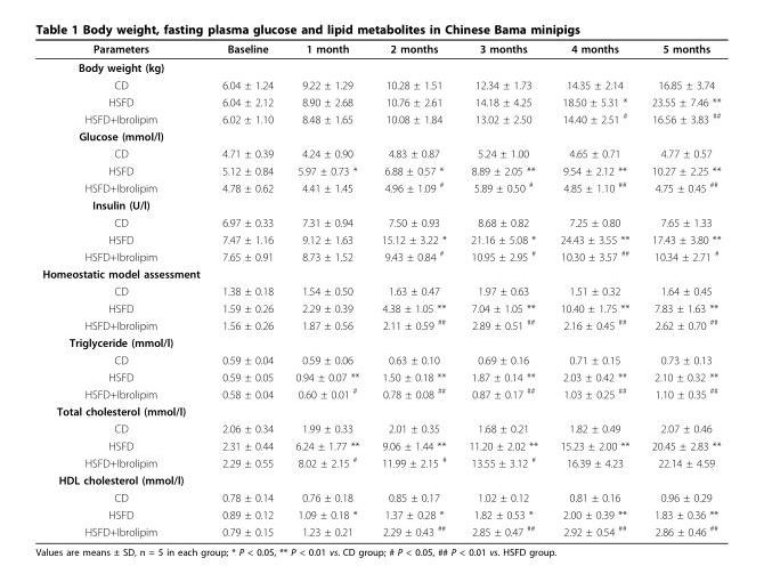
<table><thead><tr><td>Parameters</td><td>Baseline</td><td>1 month</td><td>2 months</td><td>3 months</td><td>4 months</td><td>5 months</td></tr></thead><tbody><tr><td colspan="7">Body weight (kg)</td></tr><tr><td>CD</td><td>6.04 ± 1.24</td><td>9.22 ± 1.29</td><td>10.28 ± 1.51</td><td>12.34 ± 1.73</td><td>14.35 ± 2.14</td><td>16.85 ± 3.74</td></tr><tr><td>HSFD</td><td>6.04 ± 2.12</td><td>8.90 ± 2.68</td><td>10.76 ± 2.61</td><td>14.18 ± 4.25</td><td>18.50 ± 5.31 *</td><td>23.55 ± 7.46 **</td></tr><tr><td>HSFD+Ibrolipim</td><td>6.02 ± 1.10</td><td>8.48 ± 1.65</td><td>10.08 ± 1.84</td><td>13.02 ± 2.50</td><td>14.40 ± 2.51 <sup>#</sup></td><td>16.56 ± 3.83 <sup>##</sup></td></tr><tr><td colspan="7">Glucose (mmol/l)</td></tr><tr><td>CD</td><td>4.71 ± 0.39</td><td>4.24 ± 0.90</td><td>4.83 ± 0.87</td><td>5.24 ± 1.00</td><td>4.65 ± 0.71</td><td>4.77 ± 0.57</td></tr><tr><td>HSFD</td><td>5.12 ± 0.84</td><td>5.97 ± 0.73 *</td><td>6.88 ± 0.57 *</td><td>8.89 ± 2.05 **</td><td>9.54 ± 2.12 **</td><td>10.27 ± 2.25 **</td></tr><tr><td>HSFD+Ibrolipim</td><td>4.78 ± 0.62</td><td>4.41 ± 1.45</td><td>4.96 ± 1.09 <sup>#</sup></td><td>5.89 ± 0.50 <sup>#</sup></td><td>4.85 ± 1.10 <sup>##</sup></td><td>4.75 ± 0.45 <sup>##</sup></td></tr><tr><td colspan="7">Insulin (U/l)</td></tr><tr><td>CD</td><td>6.97 ± 0.33</td><td>7.31 ± 0.94</td><td>7.50 ± 0.93</td><td>8.68 ± 0.82</td><td>7.25 ± 0.80</td><td>7.65 ± 1.33</td></tr><tr><td>HSFD</td><td>7.47 ± 1.16</td><td>9.12 ± 1.63</td><td>15.12 ± 3.22 *</td><td>21.16 ± 5.08 *</td><td>24.43 ± 3.55 **</td><td>17.43 ± 3.80 **</td></tr><tr><td>HSFD+Ibrolipim</td><td>7.65 ± 0.91</td><td>8.73 ± 1.52</td><td>9.43 ± 0.84 <sup>#</sup></td><td>10.95 ± 2.95 <sup>#</sup></td><td>10.30 ± 3.57 <sup>##</sup></td><td>10.34 ± 2.71 <sup>#</sup></td></tr><tr><td colspan="7">Homeostatic model assessment</td></tr><tr><td>CD</td><td>1.38 ± 0.18</td><td>1.54 ± 0.50</td><td>1.63 ± 0.47</td><td>1.97 ± 0.63</td><td>1.51 ± 0.32</td><td>1.64 ± 0.45</td></tr><tr><td>HSFD</td><td>1.59 ± 0.26</td><td>2.29 ± 0.39</td><td>4.38 ± 1.05 **</td><td>7.04 ± 1.05 **</td><td>10.40 ± 1.75 **</td><td>7.83 ± 1.63 **</td></tr><tr><td>HSFD+Ibrolipim</td><td>1.56 ± 0.26</td><td>1.87 ± 0.56</td><td>2.11 ± 0.59 <sup>##</sup></td><td>2.89 ± 0.51 <sup>##</sup></td><td>2.16 ± 0.45 <sup>##</sup></td><td>2.62 ± 0.70 <sup>##</sup></td></tr><tr><td colspan="7">Triglyceride (mmol/l)</td></tr><tr><td>CD</td><td>0.59 ± 0.04</td><td>0.59 ± 0.06</td><td>0.63 ± 0.10</td><td>0.69 ± 0.16</td><td>0.71 ± 0.15</td><td>0.73 ± 0.13</td></tr><tr><td>HSFD</td><td>0.59 ± 0.05</td><td>0.94 ± 0.07 **</td><td>1.50 ± 0.18 **</td><td>1.87 ± 0.14 **</td><td>2.03 ± 0.42 **</td><td>2.10 ± 0.32 **</td></tr><tr><td>HSFD+Ibrolipim</td><td>0.58 ± 0.04</td><td>0.60 ± 0.01 <sup>#</sup></td><td>0.78 ± 0.08 <sup>##</sup></td><td>0.87 ± 0.17 <sup>##</sup></td><td>1.03 ± 0.25 <sup>##</sup></td><td>1.10 ± 0.35 <sup>##</sup></td></tr><tr><td colspan="7">Total cholesterol (mmol/l)</td></tr><tr><td>CD</td><td>2.06 ± 0.34</td><td>1.99 ± 0.33</td><td>2.01 ± 0.35</td><td>1.68 ± 0.21</td><td>1.82 ± 0.49</td><td>2.07 ± 0.46</td></tr><tr><td>HSFD</td><td>2.31 ± 0.44</td><td>6.24 ± 1.77 **</td><td>9.06 ± 1.44 **</td><td>11.20 ± 2.02 **</td><td>15.23 ± 2.00 **</td><td>20.45 ± 2.83 **</td></tr><tr><td>HSFD+Ibrolipim</td><td>2.29 ± 0.55</td><td>8.02 ± 2.15 <sup>#</sup></td><td>11.99 ± 2.15 <sup>#</sup></td><td>13.55 ± 3.12 <sup>#</sup></td><td>16.39 ± 4.23</td><td>22.14 ± 4.59</td></tr><tr><td colspan="7">HDL cholesterol (mmol/l)</td></tr><tr><td>CD</td><td>0.78 ± 0.14</td><td>0.76 ± 0.18</td><td>0.85 ± 0.17</td><td>1.02 ± 0.12</td><td>0.81 ± 0.16</td><td>0.96 ± 0.29</td></tr><tr><td>HSFD</td><td>0.89 ± 0.12</td><td>1.09 ± 0.18 *</td><td>1.37 ± 0.28 *</td><td>1.82 ± 0.53 *</td><td>2.00 ± 0.39 **</td><td>1.83 ± 0.36 **</td></tr><tr><td>HSFD+Ibrolipim</td><td>0.79 ± 0.15</td><td>1.23 ± 0.21</td><td>2.29 ± 0.43 <sup>##</sup></td><td>2.85 ± 0.47 <sup>##</sup></td><td>2.92 ± 0.54 <sup>##</sup></td><td>2.86 ± 0.46 <sup>##</sup></td></tr></tbody></table>